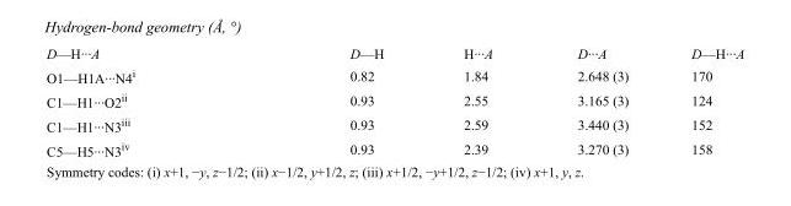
<table><tbody><tr><td>D—H···A</td><td>D—H</td><td>H···A</td><td>D···A</td><td>D—H···A</td></tr><tr><td>O1—H1A···N4<sup>i</sup></td><td>0.82</td><td>1.84</td><td>2.648 (3)</td><td>170</td></tr><tr><td>C1—H1···O2<sup>ii</sup></td><td>0.93</td><td>2.55</td><td>3.165 (3)</td><td>124</td></tr><tr><td>C1—H1···N3<sup>iii</sup></td><td>0.93</td><td>2.59</td><td>3.440 (3)</td><td>152</td></tr><tr><td>C5—H5···N3<sup>iv</sup></td><td>0.93</td><td>2.39</td><td>3.270 (3)</td><td>158</td></tr></tbody></table>